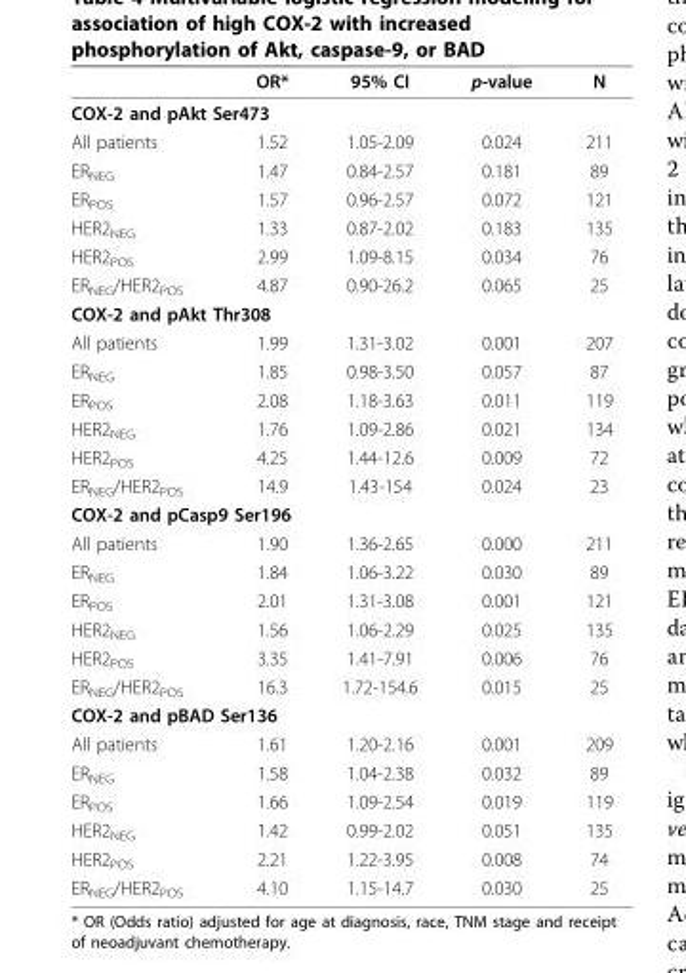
<table><thead><tr><td></td><td>OR*</td><td>95% CI</td><td>p-value</td><td>N</td></tr></thead><tbody><tr><td colspan="5">COX-2 and pAkt Ser473</td></tr><tr><td>All patients</td><td>1.52</td><td>1.05-2.09</td><td>0.024</td><td>211</td></tr><tr><td>ER<sub>NEG</sub></td><td>1.47</td><td>0.84-2.57</td><td>0.181</td><td>89</td></tr><tr><td>ER<sub>POS</sub></td><td>1.57</td><td>0.96-2.57</td><td>0.072</td><td>121</td></tr><tr><td>HER2<sub>NEG</sub></td><td>1.33</td><td>0.87-2.02</td><td>0.183</td><td>135</td></tr><tr><td>HER2<sub>POS</sub></td><td>2.99</td><td>1.09-8.15</td><td>0.034</td><td>76</td></tr><tr><td>ER<sub>NEG</sub>/HER2<sub>POS</sub></td><td>4.87</td><td>0.90-26.2</td><td>0.065</td><td>25</td></tr><tr><td colspan="5">COX-2 and pAkt Thr308</td></tr><tr><td>All patients</td><td>1.99</td><td>1.31-3.02</td><td>0.001</td><td>207</td></tr><tr><td>ER<sub>NEG</sub></td><td>1.85</td><td>0.98-3.50</td><td>0.057</td><td>87</td></tr><tr><td>ER<sub>POS</sub></td><td>2.08</td><td>1.18-3.63</td><td>0.011</td><td>119</td></tr><tr><td>HER2<sub>NEG</sub></td><td>1.76</td><td>1.09-2.86</td><td>0.021</td><td>134</td></tr><tr><td>HER2<sub>POS</sub></td><td>4.25</td><td>1.44-12.6</td><td>0.009</td><td>72</td></tr><tr><td>ER<sub>NEG</sub>/HER2<sub>POS</sub></td><td>14.9</td><td>1.43-154</td><td>0.024</td><td>23</td></tr><tr><td colspan="5">COX-2 and pCasp9 Ser196</td></tr><tr><td>All patients</td><td>1.90</td><td>1.36-2.65</td><td>0.000</td><td>211</td></tr><tr><td>ER<sub>NEG</sub></td><td>1.84</td><td>1.06-3.22</td><td>0.030</td><td>89</td></tr><tr><td>ER<sub>POS</sub></td><td>2.01</td><td>1.31-3.08</td><td>0.001</td><td>121</td></tr><tr><td>HER2<sub>NEG</sub></td><td>1.56</td><td>1.06-2.29</td><td>0.025</td><td>135</td></tr><tr><td>HER2<sub>POS</sub></td><td>3.35</td><td>1.41-7.91</td><td>0.006</td><td>76</td></tr><tr><td>ER<sub>NEG</sub>/HER2<sub>POS</sub></td><td>16.3</td><td>1.72-154.6</td><td>0.015</td><td>25</td></tr><tr><td colspan="5">COX-2 and pBAD Ser136</td></tr><tr><td>All patients</td><td>1.61</td><td>1.20-2.16</td><td>0.001</td><td>209</td></tr><tr><td>ER<sub>NEG</sub></td><td>1.58</td><td>1.04-2.38</td><td>0.032</td><td>89</td></tr><tr><td>ER<sub>POS</sub></td><td>1.66</td><td>1.09-2.54</td><td>0.019</td><td>119</td></tr><tr><td>HER2<sub>NEG</sub></td><td>1.42</td><td>0.99-2.02</td><td>0.051</td><td>135</td></tr><tr><td>HER2<sub>POS</sub></td><td>2.21</td><td>1.22-3.95</td><td>0.008</td><td>74</td></tr><tr><td>ER<sub>NEG</sub>/HER2<sub>POS</sub></td><td>4.10</td><td>1.15-14.7</td><td>0.030</td><td>25</td></tr></tbody></table>